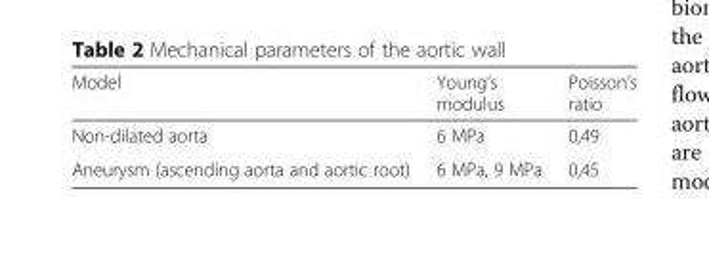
<table><thead><tr><td>Model</td><td>Young’s modulus</td><td>Poisson’s ratio</td></tr></thead><tbody><tr><td>Non-dilated aorta</td><td>6 MPa</td><td>0,49</td></tr><tr><td>Aneurysm (ascending aorta and aortic root)</td><td>6 MPa, 9 MPa</td><td>0,45</td></tr></tbody></table>